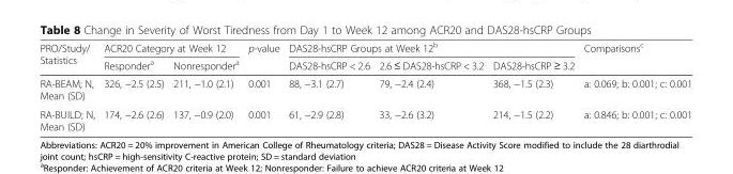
<table><thead><tr><td rowspan="2">PRO/Study/ Statistics</td><td colspan="2">ACR20 Category at Week 12</td><td rowspan="2">p-value</td><td colspan="3">DAS28-hsCRP Groups at Week 12<sup>b</sup></td><td rowspan="2">Comparisons<sup>c</sup></td></tr><tr><td>Responder<sup>a</sup></td><td>Nonresponder<sup>a</sup></td><td>DAS28-hsCRP &lt; 2.6</td><td>2.6 ≤ DAS28-hsCRP &lt; 3.2</td><td>DAS28-hsCRP ≥ 3.2</td></tr></thead><tbody><tr><td>RA-BEAM; N, Mean (SD)</td><td>326, −2.5 (2.5)</td><td>211, −1.0 (2.1)</td><td>0.001</td><td>88, −3.1 (2.7)</td><td>79, −2.4 (2.4)</td><td>368, −1.5 (2.3)</td><td>a: 0.069; b: 0.001; c: 0.001</td></tr><tr><td>RA-BUILD; N, Mean (SD)</td><td>174, −2.6 (2.6)</td><td>137, −0.9 (2.0)</td><td>0.001</td><td>61, −2.9 (2.8)</td><td>33, −2.6 (3.2)</td><td>214, −1.5 (2.2)</td><td>a: 0.846; b: 0.001; c: 0.001</td></tr></tbody></table>